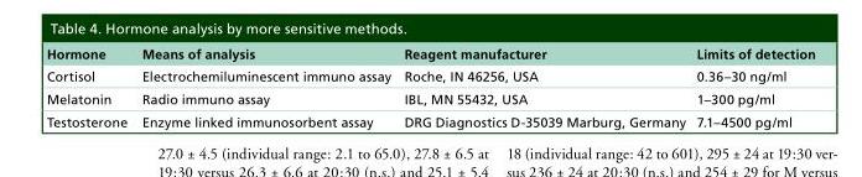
<table><thead><tr><td>Hormone</td><td>Means of analysis</td><td>Reagent manufacturer</td><td>Limits of detection</td></tr></thead><tbody><tr><td>Cortisol</td><td>Electrochemiluminescent immuno assay</td><td>Roche, IN 46256, USA</td><td>0.36–30 ng/ml</td></tr><tr><td>Melatonin</td><td>Radio immuno assay</td><td>IBL, MN 55432, USA</td><td>1–300 pg/ml</td></tr><tr><td>Testosterone</td><td>Enzyme linked immunosorbent assay</td><td>DRG Diagnostics D-35039 Marburg, Germany</td><td>7.1–4500 pg/ml</td></tr></tbody></table>